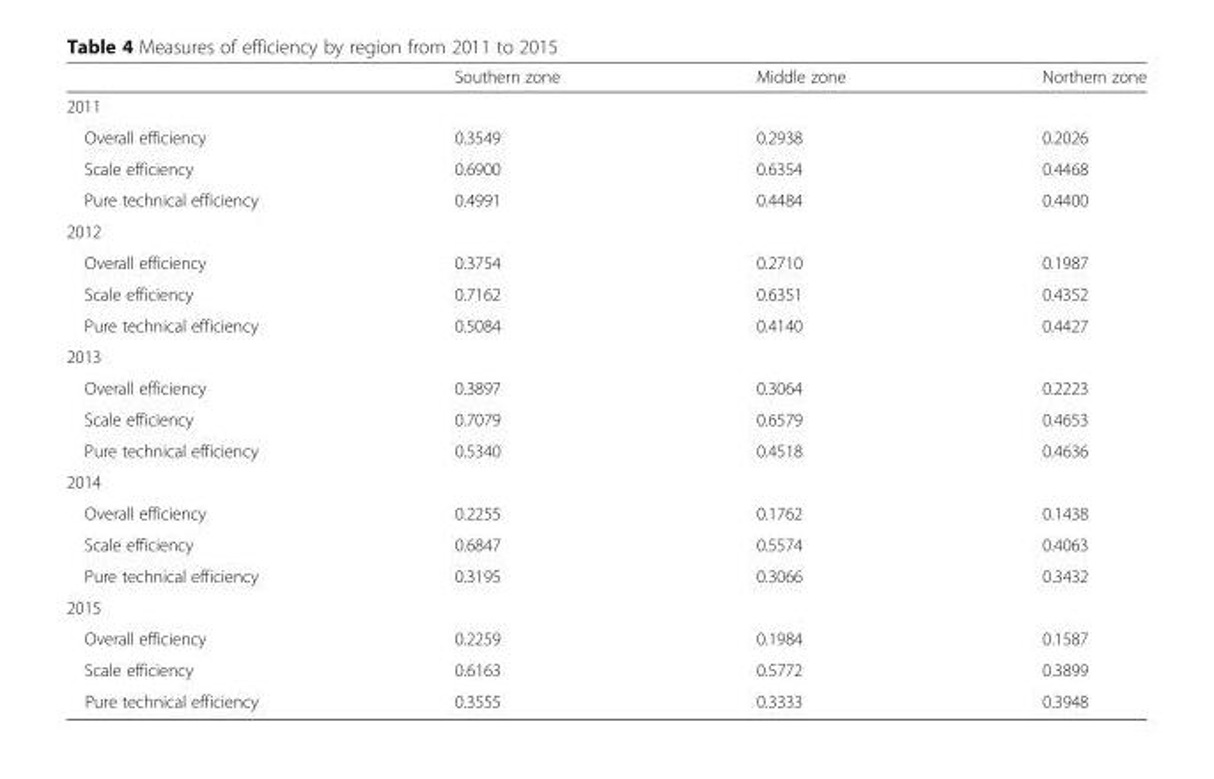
<table><thead><tr><td></td><td>Southern zone</td><td>Middle zone</td><td>Northern zone</td></tr></thead><tbody><tr><td colspan="4">2011</td></tr><tr><td>Overall efficiency</td><td>0.3549</td><td>0.2938</td><td>0.2026</td></tr><tr><td>Scale efficiency</td><td>0.6900</td><td>0.6354</td><td>0.4468</td></tr><tr><td>Pure technical efficiency</td><td>0.4991</td><td>0.4484</td><td>0.4400</td></tr><tr><td colspan="4">2012</td></tr><tr><td>Overall efficiency</td><td>0.3754</td><td>0.2710</td><td>0.1987</td></tr><tr><td>Scale efficiency</td><td>0.7162</td><td>0.6351</td><td>0.4352</td></tr><tr><td>Pure technical efficiency</td><td>0.5084</td><td>0.4140</td><td>0.4427</td></tr><tr><td colspan="4">2013</td></tr><tr><td>Overall efficiency</td><td>0.3897</td><td>0.3064</td><td>0.2223</td></tr><tr><td>Scale efficiency</td><td>0.7079</td><td>0.6579</td><td>0.4653</td></tr><tr><td>Pure technical efficiency</td><td>0.5340</td><td>0.4518</td><td>0.4636</td></tr><tr><td colspan="4">2014</td></tr><tr><td>Overall efficiency</td><td>0.2255</td><td>0.1762</td><td>0.1438</td></tr><tr><td>Scale efficiency</td><td>0.6847</td><td>0.5574</td><td>0.4063</td></tr><tr><td>Pure technical efficiency</td><td>0.3195</td><td>0.3066</td><td>0.3432</td></tr><tr><td colspan="4">2015</td></tr><tr><td>Overall efficiency</td><td>0.2259</td><td>0.1984</td><td>0.1587</td></tr><tr><td>Scale efficiency</td><td>0.6163</td><td>0.5772</td><td>0.3899</td></tr><tr><td>Pure technical efficiency</td><td>0.3555</td><td>0.3333</td><td>0.3948</td></tr></tbody></table>